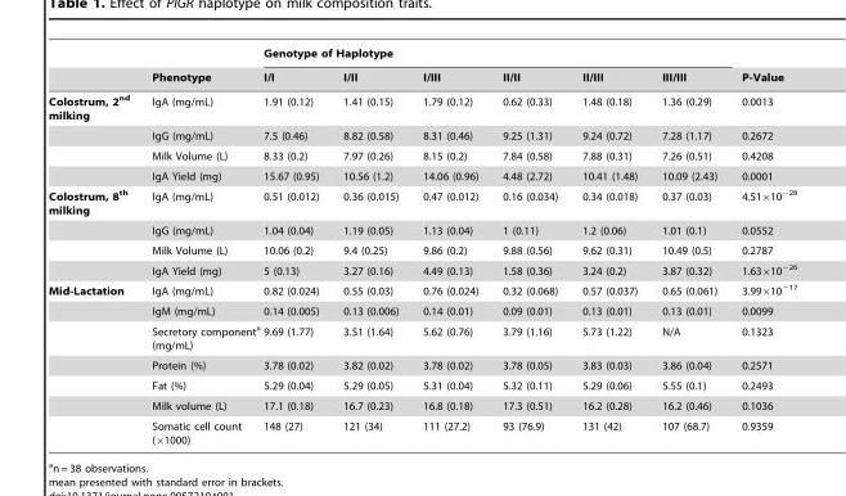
<table><thead><tr><td rowspan="2"></td><td rowspan="2">Phenotype</td><td colspan="6">Genotype of Haplotype</td><td rowspan="2">P-Value</td></tr><tr><td>I/I</td><td>I/II</td><td>I/III</td><td>II/II</td><td>II/III</td><td>III/III</td></tr></thead><tbody><tr><td rowspan="4">Colostrum, 2<sup>nd</sup> milking</td><td>IgA (mg/mL)</td><td>1.91 (0.12)</td><td>1.41 (0.15)</td><td>1.79 (0.12)</td><td>0.62 (0.33)</td><td>1.48 (0.18)</td><td>1.36 (0.29)</td><td>0.0013</td></tr><tr><td>IgG (mg/mL)</td><td>7.5 (0.46)</td><td>8.82 (0.58)</td><td>8.31 (0.46)</td><td>9.25 (1.31)</td><td>9.24 (0.72)</td><td>7.28 (1.17)</td><td>0.2672</td></tr><tr><td>Milk Volume (L)</td><td>8.33 (0.2)</td><td>7.97 (0.26)</td><td>8.15 (0.2)</td><td>7.84 (0.58)</td><td>7.88 (0.31)</td><td>7.26 (0.51)</td><td>0.4208</td></tr><tr><td>IgA Yield (mg)</td><td>15.67 (0.95)</td><td>10.56 (1.2)</td><td>14.06 (0.96)</td><td>4.48 (2.72)</td><td>10.41 (1.48)</td><td>10.09 (2.43)</td><td>0.0001</td></tr><tr><td rowspan="4">Colostrum, 8<sup>th</sup> milking</td><td>IgA (mg/mL)</td><td>0.51 (0.012)</td><td>0.36 (0.015)</td><td>0.47 (0.012)</td><td>0.16 (0.034)</td><td>0.34 (0.018)</td><td>0.37 (0.03)</td><td>4.51×10<sup>−28</sup></td></tr><tr><td>IgG (mg/mL)</td><td>1.04 (0.04)</td><td>1.19 (0.05)</td><td>1.13 (0.04)</td><td>1 (0.11)</td><td>1.2 (0.06)</td><td>1.01 (0.1)</td><td>0.0552</td></tr><tr><td>Milk Volume (L)</td><td>10.06 (0.2)</td><td>9.4 (0.25)</td><td>9.86 (0.2)</td><td>9.88 (0.56)</td><td>9.62 (0.31)</td><td>10.49 (0.5)</td><td>0.2787</td></tr><tr><td>IgA Yield (mg)</td><td>5 (0.13)</td><td>3.27 (0.16)</td><td>4.49 (0.13)</td><td>1.58 (0.36)</td><td>3.24 (0.2)</td><td>3.87 (0.32)</td><td>1.63×10<sup>−26</sup></td></tr><tr><td rowspan="7">Mid-Lactation</td><td>IgA (mg/mL)</td><td>0.82 (0.024)</td><td>0.55 (0.03)</td><td>0.76 (0.024)</td><td>0.32 (0.068)</td><td>0.57 (0.037)</td><td>0.65 (0.061)</td><td>3.99×10<sup>−17</sup></td></tr><tr><td>IgM (mg/mL)</td><td>0.14 (0.005)</td><td>0.13 (0.006)</td><td>0.14 (0.01)</td><td>0.09 (0.01)</td><td>0.13 (0.01)</td><td>0.13 (0.01)</td><td>0.0099</td></tr><tr><td>Secretory component<sup>a</sup> (mg/mL)</td><td>9.69 (1.77)</td><td>3.51 (1.64)</td><td>5.62 (0.76)</td><td>3.79 (1.16)</td><td>5.73 (1.22)</td><td>N/A</td><td>0.1323</td></tr><tr><td>Protein (%)</td><td>3.78 (0.02)</td><td>3.82 (0.02)</td><td>3.78 (0.02)</td><td>3.78 (0.05)</td><td>3.83 (0.03)</td><td>3.86 (0.04)</td><td>0.2571</td></tr><tr><td>Fat (%)</td><td>5.29 (0.04)</td><td>5.29 (0.05)</td><td>5.31 (0.04)</td><td>5.32 (0.11)</td><td>5.29 (0.06)</td><td>5.55 (0.1)</td><td>0.2493</td></tr><tr><td>Milk volume (L)</td><td>17.1 (0.18)</td><td>16.7 (0.23)</td><td>16.8 (0.18)</td><td>17.3 (0.51)</td><td>16.2 (0.28)</td><td>16.2 (0.46)</td><td>0.1036</td></tr><tr><td>Somatic cell count (×1000)</td><td>148 (27)</td><td>121 (34)</td><td>111 (27.2)</td><td>93 (76.9)</td><td>131 (42)</td><td>107 (68.7)</td><td>0.9359</td></tr></tbody></table>